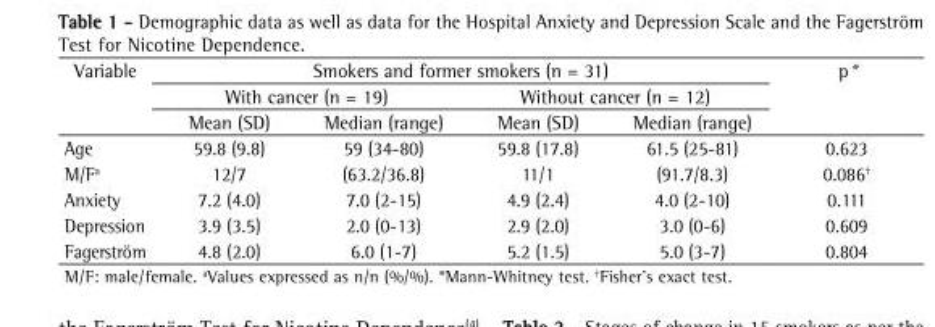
<table><thead><tr><td rowspan="3">Variable</td><td colspan="4">Smokers and former smokers (n = 31)</td><td rowspan="3">p*</td></tr><tr><td colspan="2">With cancer (n = 19)</td><td colspan="2">Without cancer (n = 12)</td></tr><tr><td>Mean (SD)</td><td>Median (range)</td><td>Mean (SD)</td><td>Median (range)</td></tr></thead><tbody><tr><td>Age</td><td>59.8 (9.8)</td><td>59 (34-80)</td><td>59.8 (17.8)</td><td>61.5 (25-81)</td><td>0.623</td></tr><tr><td>M/F<sup>a</sup></td><td>12/7</td><td>(63.2/36.8)</td><td>11/1</td><td>(91.7/8.3)</td><td>0.086<sup>†</sup></td></tr><tr><td>Anxiety</td><td>7.2 (4.0)</td><td>7.0 (2-15)</td><td>4.9 (2.4)</td><td>4.0 (2-10)</td><td>0.111</td></tr><tr><td>Depression</td><td>3.9 (3.5)</td><td>2.0 (0-13)</td><td>2.9 (2.0)</td><td>3.0 (0-6)</td><td>0.609</td></tr><tr><td>Fagerström</td><td>4.8 (2.0)</td><td>6.0 (1-7)</td><td>5.2 (1.5)</td><td>5.0 (3-7)</td><td>0.804</td></tr></tbody></table>